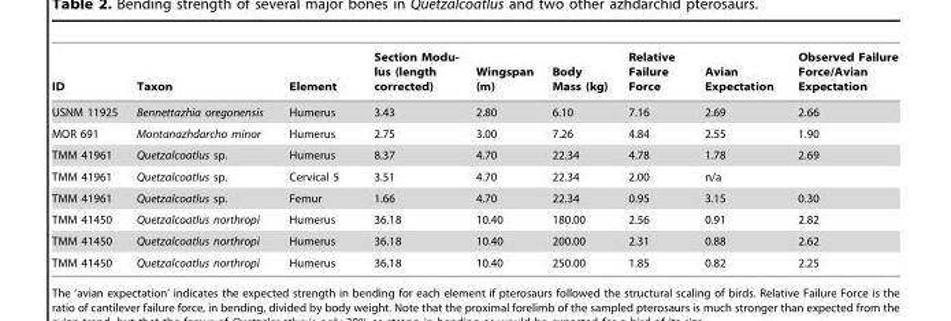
<table><thead><tr><td>ID</td><td>Taxon</td><td>Element</td><td>Section Modu- lus (length corrected)</td><td>Wingspan (m)</td><td>Body Mass (kg)</td><td>Relative Failure Force</td><td>Avian Expectation</td><td>Observed Failure Force/Avian Expectation</td></tr></thead><tbody><tr><td>USNM 11925</td><td>Bennettazhia oregonensis</td><td>Humerus</td><td>3.43</td><td>2.80</td><td>6.10</td><td>7.16</td><td>2.69</td><td>2.66</td></tr><tr><td>MOR 691</td><td>Montanazhdarcho minor</td><td>Humerus</td><td>2.75</td><td>3.00</td><td>7.26</td><td>4.84</td><td>2.55</td><td>1.90</td></tr><tr><td>TMM 41961</td><td>Quetzalcoatlus sp.</td><td>Humerus</td><td>8.37</td><td>4.70</td><td>22.34</td><td>4.78</td><td>1.78</td><td>2.69</td></tr><tr><td>TMM 41961</td><td>Quetzalcoatlus sp.</td><td>Cervical 5</td><td>3.51</td><td>4.70</td><td>22.34</td><td>2.00</td><td>n/a</td><td></td></tr><tr><td>TMM 41961</td><td>Quetzalcoatlus sp.</td><td>Femur</td><td>1.66</td><td>4.70</td><td>22.34</td><td>0.95</td><td>3.15</td><td>0.30</td></tr><tr><td>TMM 41450</td><td>Quetzalcoatlus northropi</td><td>Humerus</td><td>36.18</td><td>10.40</td><td>180.00</td><td>2.56</td><td>0.91</td><td>2.82</td></tr><tr><td>TMM 41450</td><td>Quetzalcoatlus northropi</td><td>Humerus</td><td>36.18</td><td>10.40</td><td>200.00</td><td>2.31</td><td>0.88</td><td>2.62</td></tr><tr><td>TMM 41450</td><td>Quetzalcoatlus northropi</td><td>Humerus</td><td>36.18</td><td>10.40</td><td>250.00</td><td>1.85</td><td>0.82</td><td>2.25</td></tr></tbody></table>